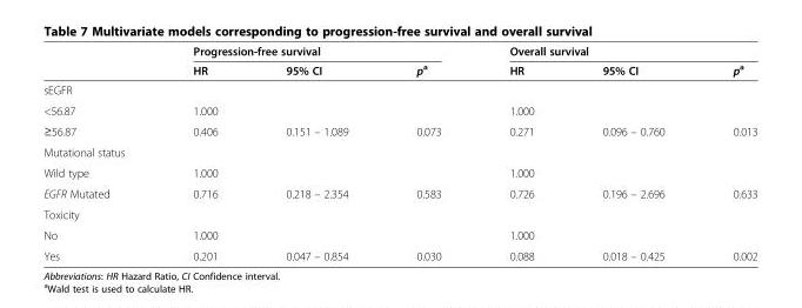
<table><thead><tr><td rowspan="2"></td><td colspan="3">Progression-free survival</td><td colspan="3">Overall survival</td></tr><tr><td>HR</td><td>95% CI</td><td>p<sup>a</sup></td><td>HR</td><td>95% CI</td><td>p<sup>a</sup></td></tr></thead><tbody><tr><td colspan="7">sEGFR</td></tr><tr><td>&lt;56.87</td><td>1.000</td><td></td><td></td><td>1.000</td><td></td><td></td></tr><tr><td>≥56.87</td><td>0.406</td><td>0.151 – 1.089</td><td>0.073</td><td>0.271</td><td>0.096 – 0.760</td><td>0.013</td></tr><tr><td colspan="7">Mutational status</td></tr><tr><td>Wild type</td><td>1.000</td><td></td><td></td><td>1.000</td><td></td><td></td></tr><tr><td>EGFR Mutated</td><td>0.716</td><td>0.218 – 2.354</td><td>0.583</td><td>0.726</td><td>0.196 – 2.696</td><td>0.633</td></tr><tr><td colspan="7">Toxicity</td></tr><tr><td>No</td><td>1.000</td><td></td><td></td><td>1.000</td><td></td><td></td></tr><tr><td>Yes</td><td>0.201</td><td>0.047 – 0.854</td><td>0.030</td><td>0.088</td><td>0.018 – 0.425</td><td>0.002</td></tr></tbody></table>